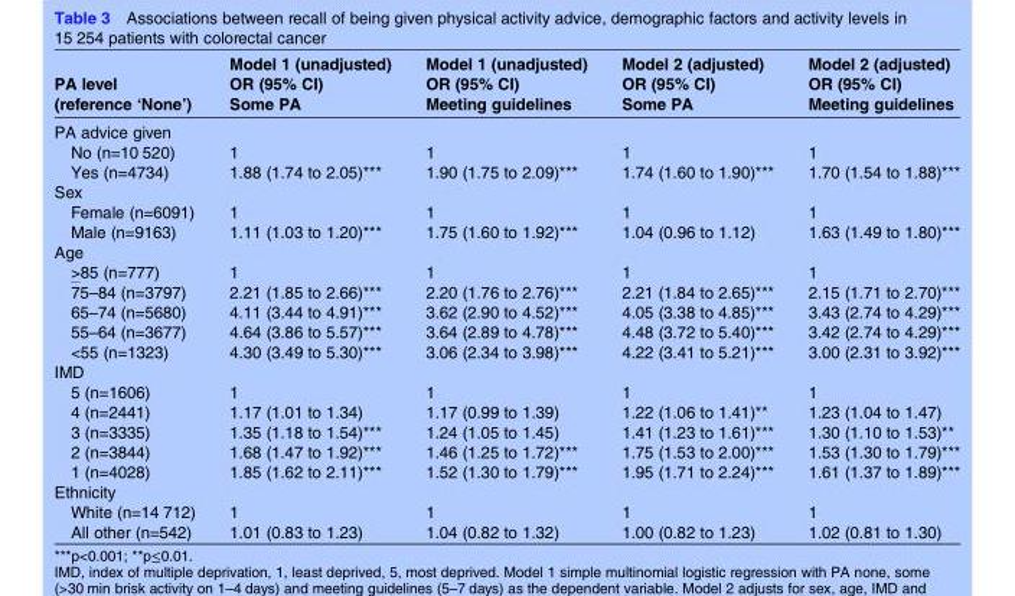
<table><thead><tr><td rowspan="2">PA level (reference ‘None’)</td><td rowspan="2">Model 1 (unadjusted) OR (95% CI) Some PA</td><td rowspan="2">Model 1 (unadjusted) OR (95% CI) Meeting guidelines</td><td rowspan="2">Model 2 (adjusted) OR (95% CI) Some PA</td><td rowspan="2">Model 2 (adjusted) OR (95% CI) Meeting guidelines</td></tr><tr></tr></thead><tbody><tr><td colspan="5">PA advice given</td></tr><tr><td>No (n=10 520)</td><td>1</td><td>1</td><td>1</td><td>1</td></tr><tr><td>Yes (n=4734)</td><td>1.88 (1.74 to 2.05)***</td><td>1.90 (1.75 to 2.09)***</td><td>1.74 (1.60 to 1.90)***</td><td>1.70 (1.54 to 1.88)***</td></tr><tr><td colspan="5">Sex</td></tr><tr><td>Female (n=6091)</td><td>1</td><td>1</td><td>1</td><td>1</td></tr><tr><td>Male (n=9163)</td><td>1.11 (1.03 to 1.20)***</td><td>1.75 (1.60 to 1.92)***</td><td>1.04 (0.96 to 1.12)</td><td>1.63 (1.49 to 1.80)***</td></tr><tr><td colspan="5">Age</td></tr><tr><td>&gt;85 (n=777)</td><td>1</td><td>1</td><td>1</td><td>1</td></tr><tr><td>75–84 (n=3797)</td><td>2.21 (1.85 to 2.66)***</td><td>2.20 (1.76 to 2.76)***</td><td>2.21 (1.84 to 2.65)***</td><td>2.15 (1.71 to 2.70)***</td></tr><tr><td>65–74 (n=5680)</td><td>4.11 (3.44 to 4.91)***</td><td>3.62 (2.90 to 4.52)***</td><td>4.05 (3.38 to 4.85)***</td><td>3.43 (2.74 to 4.29)***</td></tr><tr><td>55–64 (n=3677)</td><td>4.64 (3.86 to 5.57)***</td><td>3.64 (2.89 to 4.78)***</td><td>4.48 (3.72 to 5.40)***</td><td>3.42 (2.74 to 4.29)***</td></tr><tr><td>&lt;55 (n=1323)</td><td>4.30 (3.49 to 5.30)***</td><td>3.06 (2.34 to 3.98)***</td><td>4.22 (3.41 to 5.21)***</td><td>3.00 (2.31 to 3.92)***</td></tr><tr><td colspan="5">IMD</td></tr><tr><td>5 (n=1606)</td><td>1</td><td>1</td><td>1</td><td>1</td></tr><tr><td>4 (n=2441)</td><td>1.17 (1.01 to 1.34)</td><td>1.17 (0.99 to 1.39)</td><td>1.22 (1.06 to 1.41)**</td><td>1.23 (1.04 to 1.47)</td></tr><tr><td>3 (n=3335)</td><td>1.35 (1.18 to 1.54)***</td><td>1.24 (1.05 to 1.45)</td><td>1.41 (1.23 to 1.61)***</td><td>1.30 (1.10 to 1.53)**</td></tr><tr><td>2 (n=3844)</td><td>1.68 (1.47 to 1.92)***</td><td>1.46 (1.25 to 1.72)***</td><td>1.75 (1.53 to 2.00)***</td><td>1.53 (1.30 to 1.79)***</td></tr><tr><td>1 (n=4028)</td><td>1.85 (1.62 to 2.11)***</td><td>1.52 (1.30 to 1.79)***</td><td>1.95 (1.71 to 2.24)***</td><td>1.61 (1.37 to 1.89)***</td></tr><tr><td colspan="5">Ethnicity</td></tr><tr><td>White (n=14 712)</td><td>1</td><td>1</td><td>1</td><td>1</td></tr><tr><td>All other (n=542)</td><td>1.01 (0.83 to 1.23)</td><td>1.04 (0.82 to 1.32)</td><td>1.00 (0.82 to 1.23)</td><td>1.02 (0.81 to 1.30)</td></tr></tbody></table>